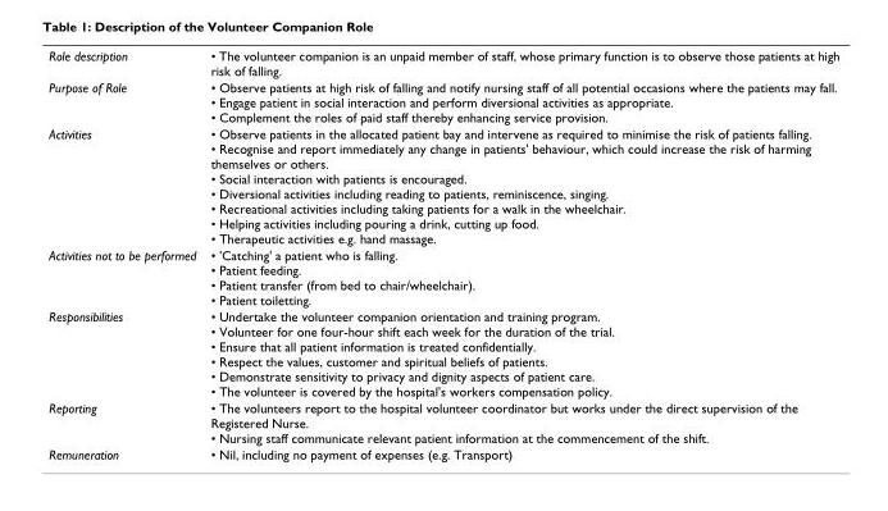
<table><tbody><tr><td>Role description</td><td>• The volunteer companion is an unpaid member of staff, whose primary function is to observe those patients at high risk of falling.</td></tr><tr><td>Purpose of Role</td><td>• Observe patients at high risk of falling and notify nursing staff of all potential occasions where the patients may fall. • Engage patient in social interaction and perform diversional activities as appropriate. • Complement the roles of paid staff thereby enhancing service provision.</td></tr><tr><td>Activities</td><td>• Observe patients in the allocated patient bay and intervene as required to minimise the risk of patients falling. • Recognise and report immediately any change in patients&#x27; behaviour, which could increase the risk of harming themselves or others. • Social interaction with patients is encouraged. • Diversional activities including reading to patients, reminiscence, singing. • Recreational activities including taking patients for a walk in the wheelchair. • Helping activities including pouring a drink, cutting up food. • Therapeutic activities e.g. hand massage.</td></tr><tr><td>Activities not to be performed</td><td>• &#x27;Catching&#x27; a patient who is falling. • Patient feeding. • Patient transfer (from bed to chair/wheelchair). • Patient toiletting.</td></tr><tr><td>Responsibilities</td><td>• Undertake the volunteer companion orientation and training program. • Volunteer for one four-hour shift each week for the duration of the trial. • Ensure that all patient information is treated confidentially. • Respect the values, customer and spiritual beliefs of patients. • Demonstrate sensitivity to privacy and dignity aspects of patient care. • The volunteer is covered by the hospital&#x27;s workers compensation policy.</td></tr><tr><td>Reporting</td><td>• The volunteers report to the hospital volunteer coordinator but works under the direct supervision of the Registered Nurse. • Nursing staff communicate relevant patient information at the commencement of the shift.</td></tr><tr><td>Remuneration</td><td>• Nil, including no payment of expenses (e.g. Transport)</td></tr></tbody></table>